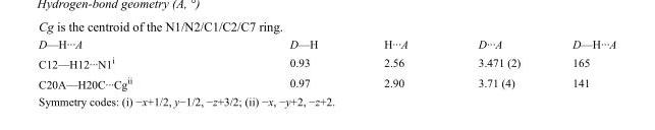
<table><tbody><tr><td>D—H···A</td><td>D—H</td><td>H···A</td><td>D···A</td><td>D—H···A</td></tr><tr><td>C12—H12···N1<sup>i</sup></td><td>0.93</td><td>2.56</td><td>3.471 (2)</td><td>165</td></tr><tr><td>C20A—H20C···Cg<sup>ii</sup></td><td>0.97</td><td>2.90</td><td>3.71 (4)</td><td>141</td></tr></tbody></table>